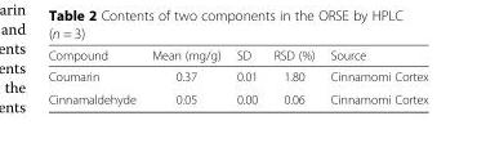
<table><thead><tr><td>Compound</td><td>Mean (mg/g)</td><td>SD</td><td>RSD (%)</td><td>Source</td></tr></thead><tbody><tr><td>Coumarin</td><td>0.37</td><td>0.01</td><td>1.80</td><td>Cinnamomi Cortex</td></tr><tr><td>Cinnamaldehyde</td><td>0.05</td><td>0.00</td><td>0.06</td><td>Cinnamomi Cortex</td></tr></tbody></table>